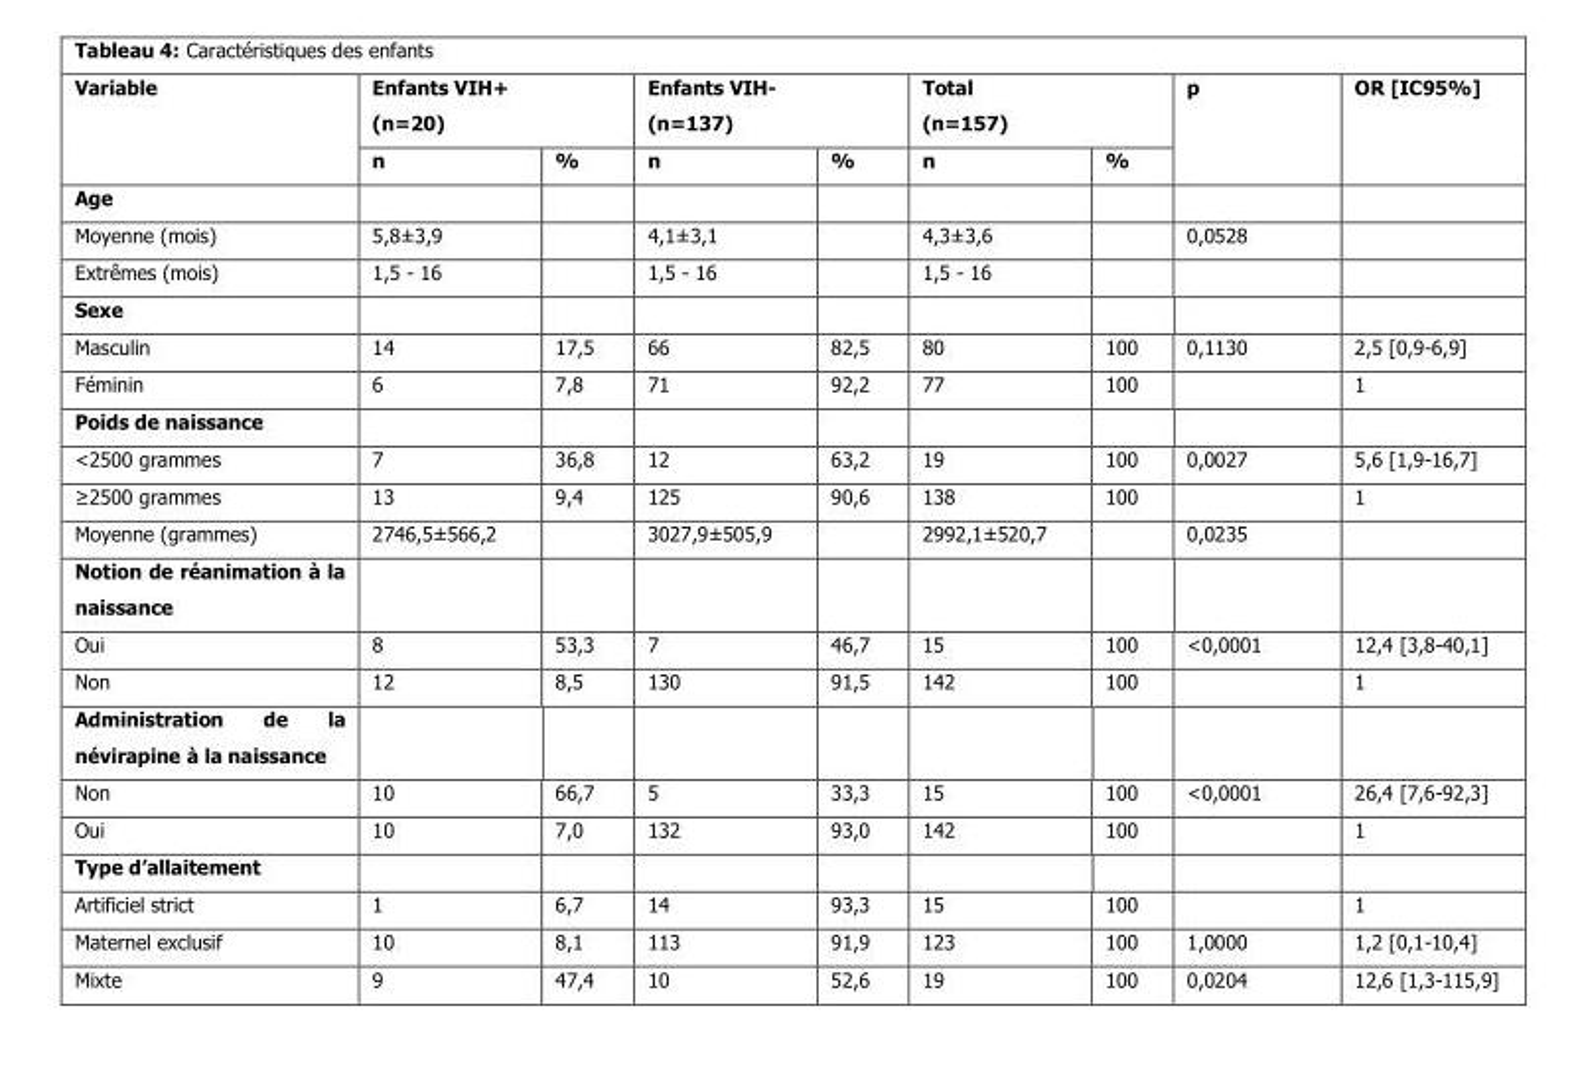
<table><thead><tr><td rowspan="2">Variable</td><td colspan="2">Enfants VIH+ (n=20)</td><td colspan="2">Enfants VIH- (n=137)</td><td colspan="2">Total (n=157)</td><td rowspan="2">p</td><td rowspan="2">OR [IC95%]</td></tr><tr><td>n</td><td>%</td><td>n</td><td>%</td><td>n</td><td>%</td></tr></thead><tbody><tr><td colspan="9">Age</td></tr><tr><td>Moyenne (mois)</td><td>5,8±3,9</td><td></td><td>4,1±3,1</td><td></td><td>4,3±3,6</td><td></td><td>0,0528</td><td></td></tr><tr><td>Extrêmes (mois)</td><td>1,5 - 16</td><td></td><td>1,5 - 16</td><td></td><td>1,5 - 16</td><td></td><td></td><td></td></tr><tr><td colspan="9">Sexe</td></tr><tr><td>Masculin</td><td>14</td><td>17,5</td><td>66</td><td>82,5</td><td>80</td><td>100</td><td>0,1130</td><td>2,5 [0,9-6,9]</td></tr><tr><td>Féminin</td><td>6</td><td>7,8</td><td>71</td><td>92,2</td><td>77</td><td>100</td><td></td><td>1</td></tr><tr><td colspan="9">Poids de naissance</td></tr><tr><td>&lt;2500 grammes</td><td>7</td><td>36,8</td><td>12</td><td>63,2</td><td>19</td><td>100</td><td>0,0027</td><td>5,6 [1,9-16,7]</td></tr><tr><td>≥2500 grammes</td><td>13</td><td>9,4</td><td>125</td><td>90,6</td><td>138</td><td>100</td><td></td><td>1</td></tr><tr><td>Moyenne (grammes)</td><td>2746,5±566,2</td><td></td><td>3027,9±505,9</td><td></td><td>2992,1±520,7</td><td></td><td>0,0235</td><td></td></tr><tr><td colspan="9">Notion de réanimation à la naissance</td></tr><tr><td>Oui</td><td>8</td><td>53,3</td><td>7</td><td>46,7</td><td>15</td><td>100</td><td>&lt;0,0001</td><td>12,4 [3,8-40,1]</td></tr><tr><td>Non</td><td>12</td><td>8,5</td><td>130</td><td>91,5</td><td>142</td><td>100</td><td></td><td>1</td></tr><tr><td colspan="9">Administration de la névirapine à la naissance</td></tr><tr><td>Non</td><td>10</td><td>66,7</td><td>5</td><td>33,3</td><td>15</td><td>100</td><td>&lt;0,0001</td><td>26,4 [7,6-92,3]</td></tr><tr><td>Oui</td><td>10</td><td>7,0</td><td>132</td><td>93,0</td><td>142</td><td>100</td><td></td><td>1</td></tr><tr><td colspan="9">Type d’allaitement</td></tr><tr><td>Artificiel strict</td><td>1</td><td>6,7</td><td>14</td><td>93,3</td><td>15</td><td>100</td><td></td><td>1</td></tr><tr><td>Maternel exclusif</td><td>10</td><td>8,1</td><td>113</td><td>91,9</td><td>123</td><td>100</td><td>1,0000</td><td>1,2 [0,1-10,4]</td></tr><tr><td>Mixte</td><td>9</td><td>47,4</td><td>10</td><td>52,6</td><td>19</td><td>100</td><td>0,0204</td><td>12,6 [1,3-115,9]</td></tr></tbody></table>